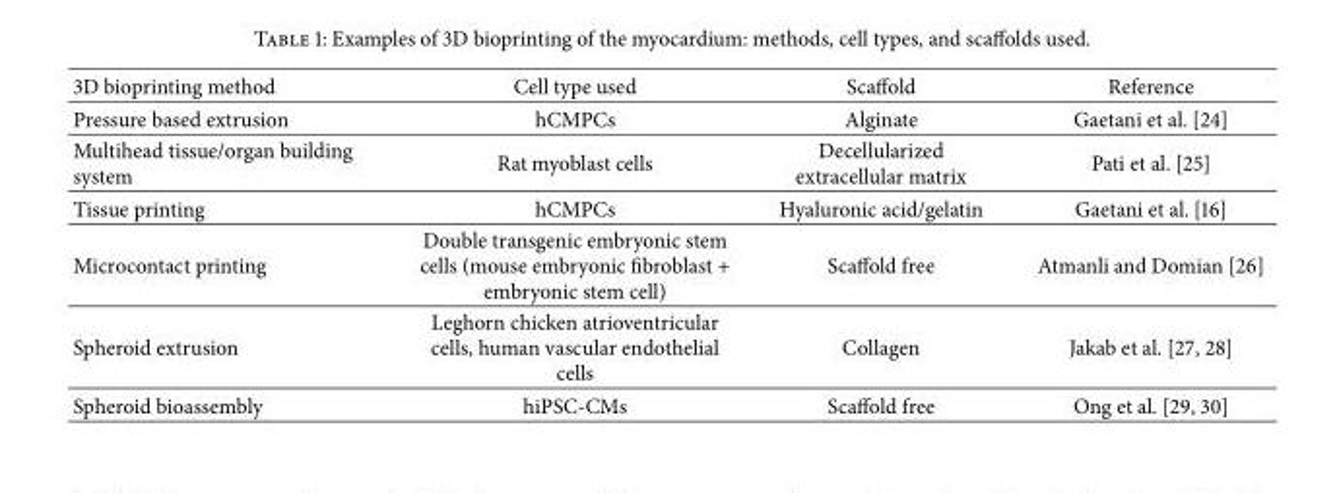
<table><thead><tr><td>3D bioprinting method</td><td>Cell type used</td><td>Scaffold</td><td>Reference</td></tr></thead><tbody><tr><td>Pressure based extrusion</td><td>hCMPCs</td><td>Alginate</td><td>Gaetani et al. [24]</td></tr><tr><td>Multihead tissue/organ building system</td><td>Rat myoblast cells</td><td>Decellularized extracellular matrix</td><td>Pati et al. [25]</td></tr><tr><td>Tissue printing</td><td>hCMPCs</td><td>Hyaluronic acid/gelatin</td><td>Gaetani et al. [16]</td></tr><tr><td>Microcontact printing</td><td>Double transgenic embryonic stem cells (mouse embryonic fibroblast + embryonic stem cell)</td><td>Scaffold free</td><td>Atmanli and Domian [26]</td></tr><tr><td>Spheroid extrusion</td><td>Leghorn chicken atrioventricular cells, human vascular endothelial cells</td><td>Collagen</td><td>Jakab et al. [27, 28]</td></tr><tr><td>Spheroid bioassembly</td><td>hiPSC-CMs</td><td>Scaffold free</td><td>Ong et al. [29, 30]</td></tr></tbody></table>